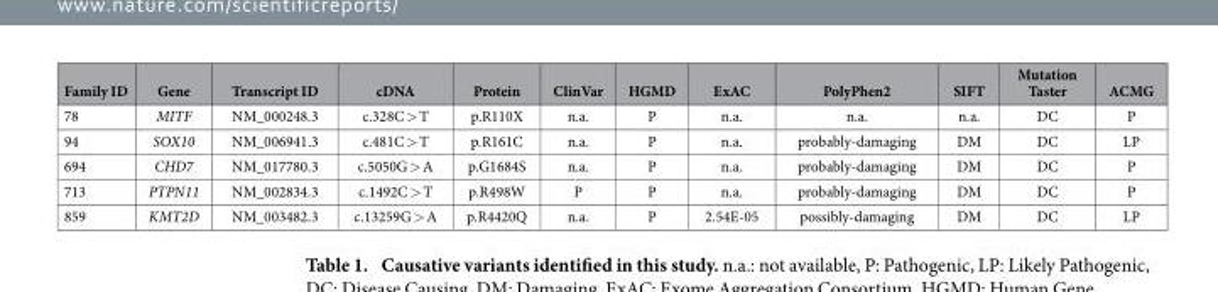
<table><thead><tr><td>Family ID</td><td>Gene</td><td>Transcript ID</td><td>cDNA</td><td>Protein</td><td>ClinVar</td><td>HGMD</td><td>ExAC</td><td>PolyPhen2</td><td>SIFT</td><td>Mutation Taster</td><td>ACMG</td></tr></thead><tbody><tr><td>78</td><td>MITF</td><td>NM_000248.3</td><td>c.328C &gt; T</td><td>p.R110X</td><td>n.a.</td><td>P</td><td>n.a.</td><td>n.a.</td><td>n.a.</td><td>DC</td><td>P</td></tr><tr><td>94</td><td>SOX10</td><td>NM_006941.3</td><td>c.481C &gt; T</td><td>p.R161C</td><td>n.a.</td><td>P</td><td>n.a.</td><td>probably-damaging</td><td>DM</td><td>DC</td><td>LP</td></tr><tr><td>694</td><td>CHD7</td><td>NM_017780.3</td><td>c.5050G &gt; A</td><td>p.G1684S</td><td>n.a.</td><td>P</td><td>n.a.</td><td>probably-damaging</td><td>DM</td><td>DC</td><td>P</td></tr><tr><td>713</td><td>PTPN11</td><td>NM_002834.3</td><td>c.1492C &gt; T</td><td>p.R498W</td><td>P</td><td>P</td><td>n.a.</td><td>probably-damaging</td><td>DM</td><td>DC</td><td>P</td></tr><tr><td>859</td><td>KMT2D</td><td>NM_003482.3</td><td>c.13259G &gt; A</td><td>p.R4420Q</td><td>n.a.</td><td>P</td><td>2.54E-05</td><td>possibly-damaging</td><td>DM</td><td>DC</td><td>LP</td></tr></tbody></table>